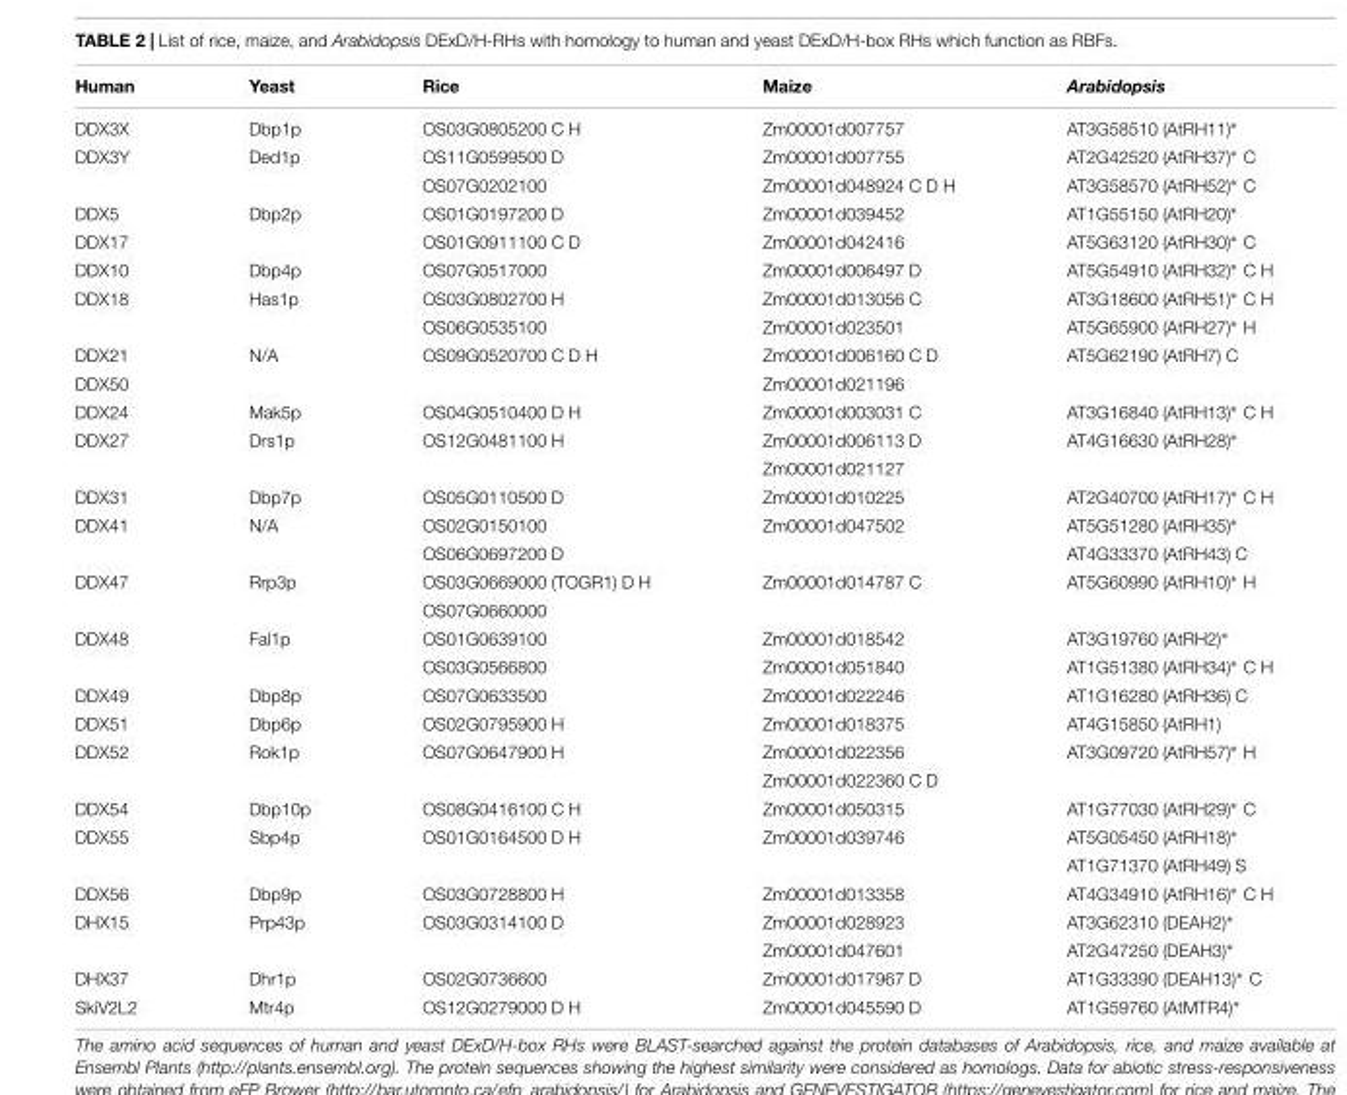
<table><thead><tr><td>Human</td><td>Yeast</td><td>Rice</td><td>Maize</td><td>Arabidopsis</td></tr></thead><tbody><tr><td>DDX3X</td><td>Dbp1p</td><td>OS03G0805200 C H</td><td>Zm00001d007757</td><td>AT3G58510 (AtRH11)∗</td></tr><tr><td rowspan="2">DDX3Y</td><td>Ded1p</td><td>OS11G0599500 D</td><td>Zm00001d007755</td><td>AT2G42520 (AtRH37)∗ C</td></tr><tr><td></td><td>OS07G0202100</td><td>Zm00001d048924 C D H</td><td>AT3G58570 (AtRH52)∗ C</td></tr><tr><td>DDX5</td><td>Dbp2p</td><td>OS01G0197200 D</td><td>Zm00001d039452</td><td>AT1G55150 (AtRH20)∗</td></tr><tr><td>DDX17</td><td></td><td>OS01G0911100 C D</td><td>Zm00001d042416</td><td>AT5G63120 (AtRH30)∗ C</td></tr><tr><td>DDX10</td><td>Dbp4p</td><td>OS07G0517000</td><td>Zm00001d006497 D</td><td>AT5G54910 (AtRH32)∗ C H</td></tr><tr><td rowspan="2">DDX18</td><td>Has1p</td><td>OS03G0802700 H</td><td>Zm00001d013056 C</td><td>AT3G18600 (AtRH51)∗ C H</td></tr><tr><td></td><td>OS06G0535100</td><td>Zm00001d023501</td><td>AT5G65900 (AtRH27)∗ H</td></tr><tr><td>DDX21</td><td>N/A</td><td>OS09G0520700 C D H</td><td>Zm00001d006160 C D</td><td>AT5G62190 (AtRH7) C</td></tr><tr><td>DDX50</td><td></td><td></td><td>Zm00001d021196</td><td></td></tr><tr><td>DDX24</td><td>Mak5p</td><td>OS04G0510400 D H</td><td>Zm00001d003031 C</td><td>AT3G16840 (AtRH13)∗ C H</td></tr><tr><td rowspan="2">DDX27</td><td>Drs1p</td><td>OS12G0481100 H</td><td>Zm00001d006113 D</td><td>AT4G16630 (AtRH28)∗</td></tr><tr><td></td><td></td><td>Zm00001d021127</td><td></td></tr><tr><td>DDX31</td><td>Dbp7p</td><td>OS05G0110500 D</td><td>Zm00001d010225</td><td>AT2G40700 (AtRH17)∗ C H</td></tr><tr><td rowspan="2">DDX41</td><td>N/A</td><td>OS02G0150100</td><td>Zm00001d047502</td><td>AT5G51280 (AtRH35)∗</td></tr><tr><td></td><td>OS06G0697200 D</td><td></td><td>AT4G33370 (AtRH43) C</td></tr><tr><td rowspan="2">DDX47</td><td>Rrp3p</td><td>OS03G0669000 (TOGR1) D H</td><td>Zm00001d014787 C</td><td>AT5G60990 (AtRH10)∗ H</td></tr><tr><td></td><td>OS07G0660000</td><td></td><td></td></tr><tr><td rowspan="2">DDX48</td><td>Fal1p</td><td>OS01G0639100</td><td>Zm00001d018542</td><td>AT3G19760 (AtRH2)∗</td></tr><tr><td></td><td>OS03G0566800</td><td>Zm00001d051840</td><td>AT1G51380 (AtRH34)∗ C H</td></tr><tr><td>DDX49</td><td>Dbp8p</td><td>OS07G0633500</td><td>Zm00001d022246</td><td>AT1G16280 (AtRH36) C</td></tr><tr><td>DDX51</td><td>Dbp6p</td><td>OS02G0795900 H</td><td>Zm00001d018375</td><td>AT4G15850 (AtRH1)</td></tr><tr><td rowspan="2">DDX52</td><td>Rok1p</td><td>OS07G0647900 H</td><td>Zm00001d022356</td><td>AT3G09720 (AtRH57)∗ H</td></tr><tr><td></td><td></td><td>Zm00001d022360 C D</td><td></td></tr><tr><td>DDX54</td><td>Dbp10p</td><td>OS08G0416100 C H</td><td>Zm00001d050315</td><td>AT1G77030 (AtRH29)∗ C</td></tr><tr><td rowspan="2">DDX55</td><td>Sbp4p</td><td>OS01G0164500 D H</td><td>Zm00001d039746</td><td>AT5G05450 (AtRH18)∗</td></tr><tr><td></td><td></td><td></td><td>AT1G71370 (AtRH49) S</td></tr><tr><td>DDX56</td><td>Dbp9p</td><td>OS03G0728800 H</td><td>Zm00001d013358</td><td>AT4G34910 (AtRH16)∗ C H</td></tr><tr><td rowspan="2">DHX15</td><td>Prp43p</td><td>OS03G0314100 D</td><td>Zm00001d028923</td><td>AT3G62310 (DEAH2)∗</td></tr><tr><td></td><td></td><td>Zm00001d047601</td><td>AT2G47250 (DEAH3)∗</td></tr><tr><td>DHX37</td><td>Dhr1p</td><td>OS02G0736600</td><td>Zm00001d017967 D</td><td>AT1G33390 (DEAH13)∗ C</td></tr><tr><td>SkiV2L2</td><td>Mtr4p</td><td>OS12G0279000 D H</td><td>Zm00001d045590 D</td><td>AT1G59760 (AtMTR4)∗</td></tr></tbody></table>